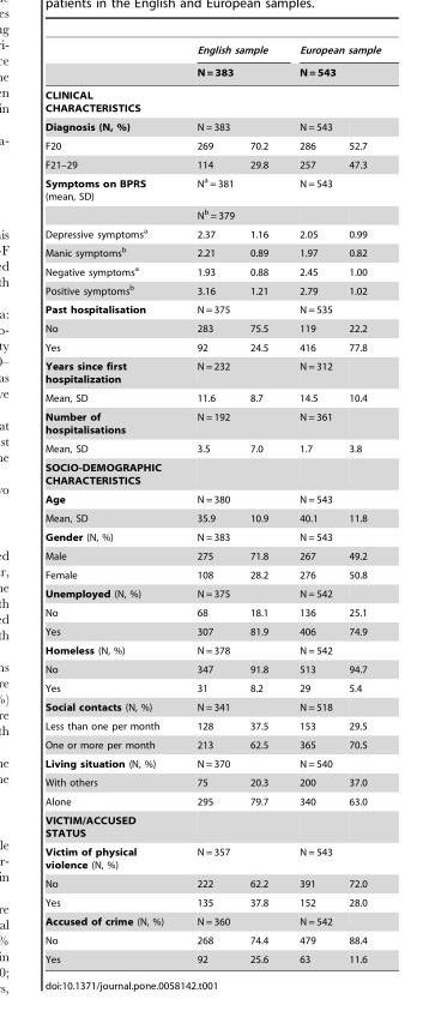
<table><thead><tr><td rowspan="3">CLINICAL CHARACTERISTICS</td><td rowspan="2" colspan="2">English sample N = 383</td><td rowspan="2" colspan="2">European sample N = 543</td></tr><tr></tr><tr><td></td><td></td><td></td><td></td></tr></thead><tbody><tr><td>Diagnosis (N, %)</td><td>N = 383</td><td></td><td>N = 543</td><td></td></tr><tr><td>F20</td><td>269</td><td>70.2</td><td>286</td><td>52.7</td></tr><tr><td>F21–29</td><td>114</td><td>29.8</td><td>257</td><td>47.3</td></tr><tr><td rowspan="2">Symptoms on BPRS (mean, SD)</td><td>N<sup>a</sup> = 381</td><td></td><td>N = 543</td><td></td></tr><tr><td>N<sup>b</sup> = 379</td><td></td><td></td><td></td></tr><tr><td>Depressive symptoms<sup>a</sup></td><td>2.37</td><td>1.16</td><td>2.05</td><td>0.99</td></tr><tr><td>Manic symptoms<sup>b</sup></td><td>2.21</td><td>0.89</td><td>1.97</td><td>0.82</td></tr><tr><td>Negative symptoms<sup>a</sup></td><td>1.93</td><td>0.88</td><td>2.45</td><td>1.00</td></tr><tr><td>Positive symptoms<sup>b</sup></td><td>3.16</td><td>1.21</td><td>2.79</td><td>1.02</td></tr><tr><td>Past hospitalisation</td><td>N = 375</td><td></td><td>N = 535</td><td></td></tr><tr><td>No</td><td>283</td><td>75.5</td><td>119</td><td>22.2</td></tr><tr><td>Yes</td><td>92</td><td>24.5</td><td>416</td><td>77.8</td></tr><tr><td>Years since first hospitalization</td><td>N = 232</td><td></td><td>N = 312</td><td></td></tr><tr><td>Mean, SD</td><td>11.6</td><td>8.7</td><td>14.5</td><td>10.4</td></tr><tr><td>Number of hospitalisations</td><td>N = 192</td><td></td><td>N = 361</td><td></td></tr><tr><td>Mean, SD</td><td>3.5</td><td>7.0</td><td>1.7</td><td>3.8</td></tr><tr><td colspan="5">SOCIO-DEMOGRAPHIC CHARACTERISTICS</td></tr><tr><td>Age</td><td>N = 380</td><td></td><td>N = 543</td><td></td></tr><tr><td>Mean, SD</td><td>35.9</td><td>10.9</td><td>40.1</td><td>11.8</td></tr><tr><td>Gender (N, %)</td><td>N = 383</td><td></td><td>N = 543</td><td></td></tr><tr><td>Male</td><td>275</td><td>71.8</td><td>267</td><td>49.2</td></tr><tr><td>Female</td><td>108</td><td>28.2</td><td>276</td><td>50.8</td></tr><tr><td>Unemployed (N, %)</td><td>N = 375</td><td></td><td>N = 542</td><td></td></tr><tr><td>No</td><td>68</td><td>18.1</td><td>136</td><td>25.1</td></tr><tr><td>Yes</td><td>307</td><td>81.9</td><td>406</td><td>74.9</td></tr><tr><td>Homeless (N, %)</td><td>N = 378</td><td></td><td>N = 542</td><td></td></tr><tr><td>No</td><td>347</td><td>91.8</td><td>513</td><td>94.7</td></tr><tr><td>Yes</td><td>31</td><td>8.2</td><td>29</td><td>5.4</td></tr><tr><td>Social contacts (N, %)</td><td>N = 341</td><td></td><td>N = 518</td><td></td></tr><tr><td>Less than one per month</td><td>128</td><td>37.5</td><td>153</td><td>29.5</td></tr><tr><td>One or more per month</td><td>213</td><td>62.5</td><td>365</td><td>70.5</td></tr><tr><td>Living situation (N, %)</td><td>N = 370</td><td></td><td>N = 540</td><td></td></tr><tr><td>With others</td><td>75</td><td>20.3</td><td>200</td><td>37.0</td></tr><tr><td>Alone</td><td>295</td><td>79.7</td><td>340</td><td>63.0</td></tr><tr><td colspan="5">VICTIM/ACCUSED STATUS</td></tr><tr><td>Victim of physical violence (N, %)</td><td>N = 357</td><td></td><td>N = 543</td><td></td></tr><tr><td>No</td><td>222</td><td>62.2</td><td>391</td><td>72.0</td></tr><tr><td>Yes</td><td>135</td><td>37.8</td><td>152</td><td>28.0</td></tr><tr><td>Accused of crime (N, %)</td><td>N = 360</td><td></td><td>N = 542</td><td></td></tr><tr><td>No</td><td>268</td><td>74.4</td><td>479</td><td>88.4</td></tr><tr><td>Yes</td><td>92</td><td>25.6</td><td>63</td><td>11.6</td></tr></tbody></table>